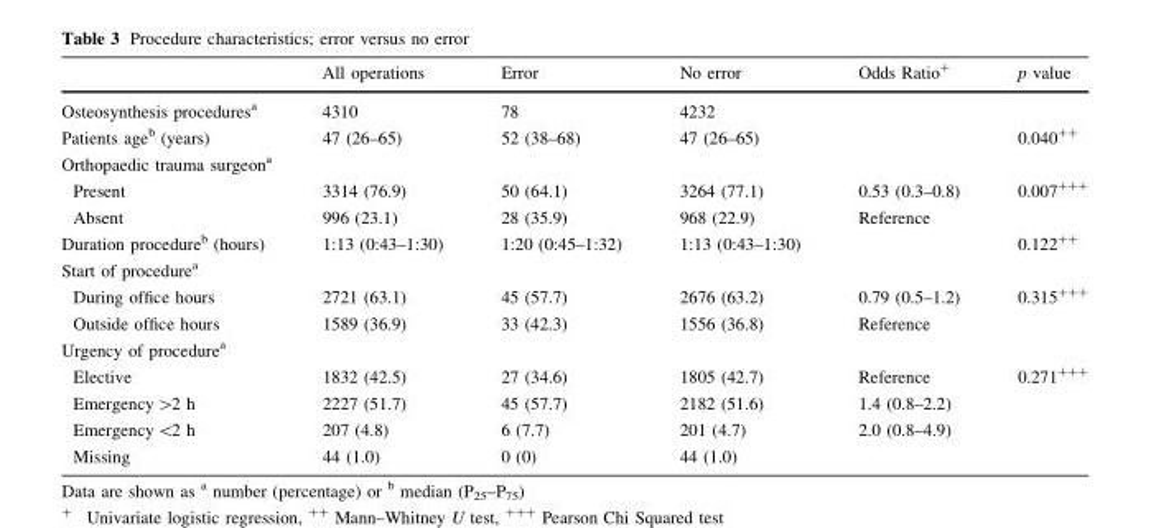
<table><thead><tr><td></td><td>All operations</td><td>Error</td><td>No error</td><td>Odds Ratio<sup>+</sup></td><td>p value</td></tr></thead><tbody><tr><td>Osteosynthesis procedures<sup>a</sup></td><td>4310</td><td>78</td><td>4232</td><td></td><td></td></tr><tr><td>Patients age<sup>b</sup> (years)</td><td>47 (26–65)</td><td>52 (38–68)</td><td>47 (26–65)</td><td></td><td>0.040<sup>++</sup></td></tr><tr><td colspan="6">Orthopaedic trauma surgeon<sup>a</sup></td></tr><tr><td>Present</td><td>3314 (76.9)</td><td>50 (64.1)</td><td>3264 (77.1)</td><td>0.53 (0.3–0.8)</td><td>0.007<sup>+++</sup></td></tr><tr><td>Absent</td><td>996 (23.1)</td><td>28 (35.9)</td><td>968 (22.9)</td><td>Reference</td><td></td></tr><tr><td>Duration procedure<sup>b</sup> (hours)</td><td>1:13 (0:43–1:30)</td><td>1:20 (0:45–1:32)</td><td>1:13 (0:43–1:30)</td><td></td><td>0.122<sup>++</sup></td></tr><tr><td colspan="6">Start of procedure<sup>a</sup></td></tr><tr><td>During office hours</td><td>2721 (63.1)</td><td>45 (57.7)</td><td>2676 (63.2)</td><td>0.79 (0.5–1.2)</td><td>0.315<sup>+++</sup></td></tr><tr><td>Outside office hours</td><td>1589 (36.9)</td><td>33 (42.3)</td><td>1556 (36.8)</td><td>Reference</td><td></td></tr><tr><td colspan="6">Urgency of procedure<sup>a</sup></td></tr><tr><td>Elective</td><td>1832 (42.5)</td><td>27 (34.6)</td><td>1805 (42.7)</td><td>Reference</td><td rowspan="4">0.271<sup>+++</sup></td></tr><tr><td>Emergency &gt;2 h</td><td>2227 (51.7)</td><td>45 (57.7)</td><td>2182 (51.6)</td><td>1.4 (0.8–2.2)</td></tr><tr><td>Emergency &lt;2 h</td><td>207 (4.8)</td><td>6 (7.7)</td><td>201 (4.7)</td><td>2.0 (0.8–4.9)</td></tr><tr><td>Missing</td><td>44 (1.0)</td><td>0 (0)</td><td>44 (1.0)</td><td></td></tr></tbody></table>